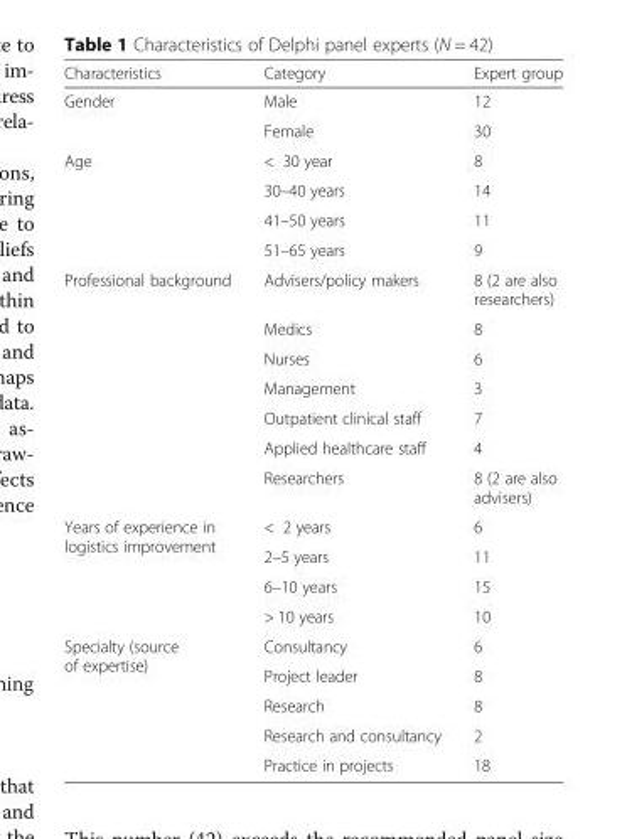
<table><thead><tr><td>Characteristics</td><td>Category</td><td>Expert group</td></tr></thead><tbody><tr><td rowspan="2">Gender</td><td>Male</td><td>12</td></tr><tr><td>Female</td><td>30</td></tr><tr><td rowspan="4">Age</td><td>&lt; 30 year</td><td>8</td></tr><tr><td>30–40 years</td><td>14</td></tr><tr><td>41–50 years</td><td>11</td></tr><tr><td>51–65 years</td><td>9</td></tr><tr><td rowspan="7">Professional background</td><td>Advisers/policy makers</td><td>8 (2 are also researchers)</td></tr><tr><td>Medics</td><td>8</td></tr><tr><td>Nurses</td><td>6</td></tr><tr><td>Management</td><td>3</td></tr><tr><td>Outpatient clinical staff</td><td>7</td></tr><tr><td>Applied healthcare staff</td><td>4</td></tr><tr><td>Researchers</td><td>8 (2 are also advisers)</td></tr><tr><td rowspan="4">Years of experience in logistics improvement</td><td>&lt; 2 years</td><td>6</td></tr><tr><td>2–5 years</td><td>11</td></tr><tr><td>6–10 years</td><td>15</td></tr><tr><td>&gt; 10 years</td><td>10</td></tr><tr><td rowspan="5">Specialty (source of expertise)</td><td>Consultancy</td><td>6</td></tr><tr><td>Project leader</td><td>8</td></tr><tr><td>Research</td><td>8</td></tr><tr><td>Research and consultancy</td><td>2</td></tr><tr><td>Practice in projects</td><td>18</td></tr></tbody></table>